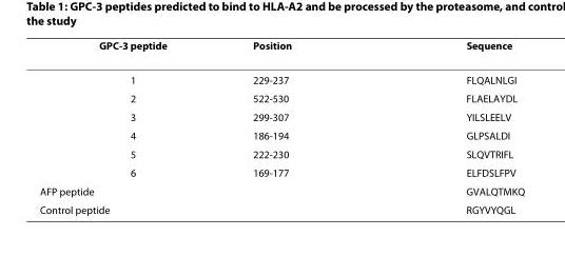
<table><thead><tr><td>GPC-3 peptide</td><td>Position</td><td>Sequence</td></tr></thead><tbody><tr><td>1</td><td>229-237</td><td>FLQALNLGI</td></tr><tr><td>2</td><td>522-530</td><td>FLAELAYDL</td></tr><tr><td>3</td><td>299-307</td><td>YILSLEELV</td></tr><tr><td>4</td><td>186-194</td><td>GLPSALDI</td></tr><tr><td>5</td><td>222-230</td><td>SLQVTRIFL</td></tr><tr><td>6</td><td>169-177</td><td>ELFDSLFPV</td></tr><tr><td>AFP peptide</td><td></td><td>GVALQTMKQ</td></tr><tr><td>Control peptide</td><td></td><td>RGYVYQGL</td></tr></tbody></table>